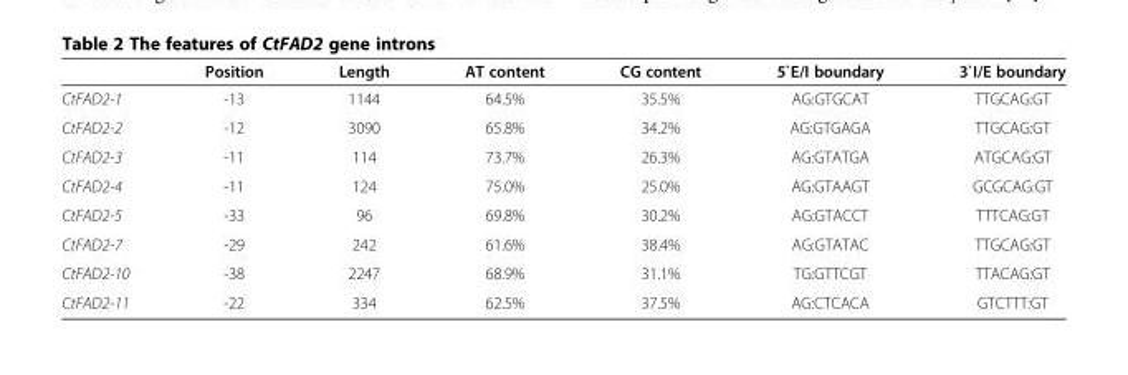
<table><thead><tr><td></td><td>Position</td><td>Length</td><td>AT content</td><td>CG content</td><td>5`E/I boundary</td><td>3`I/E boundary</td></tr></thead><tbody><tr><td>CtFAD2-1</td><td>-13</td><td>1144</td><td>64.5%</td><td>35.5%</td><td>AG:GTGCAT</td><td>TTGCAG:GT</td></tr><tr><td>CtFAD2-2</td><td>-12</td><td>3090</td><td>65.8%</td><td>34.2%</td><td>AG:GTGAGA</td><td>TTGCAG:GT</td></tr><tr><td>CtFAD2-3</td><td>-11</td><td>114</td><td>73.7%</td><td>26.3%</td><td>AG:GTATGA</td><td>ATGCAG:GT</td></tr><tr><td>CtFAD2-4</td><td>-11</td><td>124</td><td>75.0%</td><td>25.0%</td><td>AG:GTAAGT</td><td>GCGCAG:GT</td></tr><tr><td>CtFAD2-5</td><td>-33</td><td>96</td><td>69.8%</td><td>30.2%</td><td>AG:GTACCT</td><td>TTTCAG:GT</td></tr><tr><td>CtFAD2-7</td><td>-29</td><td>242</td><td>61.6%</td><td>38.4%</td><td>AG:GTATAC</td><td>TTGCAG:GT</td></tr><tr><td>CtFAD2-10</td><td>-38</td><td>2247</td><td>68.9%</td><td>31.1%</td><td>TG:GTTCGT</td><td>TTACAG:GT</td></tr><tr><td>CtFAD2-11</td><td>-22</td><td>334</td><td>62.5%</td><td>37.5%</td><td>AG:CTCACA</td><td>GTCTTT:GT</td></tr></tbody></table>